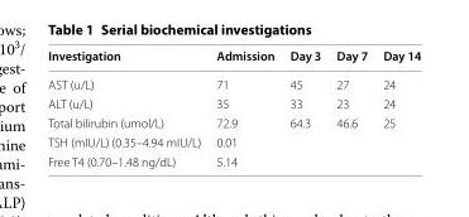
<table><thead><tr><td>Investigation</td><td>Admission</td><td>Day 3</td><td>Day 7</td><td>Day 14</td></tr></thead><tbody><tr><td>AST (u/L)</td><td>71</td><td>45</td><td>27</td><td>24</td></tr><tr><td>ALT (u/L)</td><td>35</td><td>33</td><td>23</td><td>24</td></tr><tr><td>Total bilirubin (umol/L)</td><td>72.9</td><td>64.3</td><td>46.6</td><td>25</td></tr><tr><td>TSH (mIU/L) (0.35–4.94 mIU/L)</td><td>0.01</td><td></td><td></td><td></td></tr><tr><td>Free T4 (0.70–1.48 ng/dL)</td><td>5.14</td><td></td><td></td><td></td></tr></tbody></table>